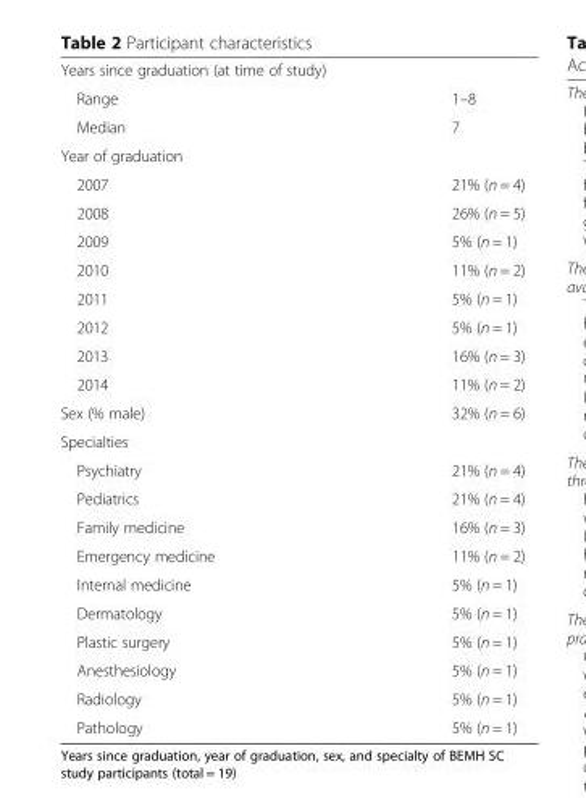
<table><tbody><tr><td colspan="2">Years since graduation (at time of study)</td></tr><tr><td>Range</td><td>1–8</td></tr><tr><td>Median</td><td>7</td></tr><tr><td colspan="2">Year of graduation</td></tr><tr><td>2007</td><td>21% (n = 4)</td></tr><tr><td>2008</td><td>26% (n = 5)</td></tr><tr><td>2009</td><td>5% (n = 1)</td></tr><tr><td>2010</td><td>11% (n = 2)</td></tr><tr><td>2011</td><td>5% (n = 1)</td></tr><tr><td>2012</td><td>5% (n = 1)</td></tr><tr><td>2013</td><td>16% (n = 3)</td></tr><tr><td>2014</td><td>11% (n = 2)</td></tr><tr><td>Sex (% male)</td><td>32% (n = 6)</td></tr><tr><td colspan="2">Specialties</td></tr><tr><td>Psychiatry</td><td>21% (n = 4)</td></tr><tr><td>Pediatrics</td><td>21% (n = 4)</td></tr><tr><td>Family medicine</td><td>16% (n = 3)</td></tr><tr><td>Emergency medicine</td><td>11% (n = 2)</td></tr><tr><td>Internal medicine</td><td>5% (n = 1)</td></tr><tr><td>Dermatology</td><td>5% (n = 1)</td></tr><tr><td>Plastic surgery</td><td>5% (n = 1)</td></tr><tr><td>Anesthesiology</td><td>5% (n = 1)</td></tr><tr><td>Radiology</td><td>5% (n = 1)</td></tr><tr><td>Pathology</td><td>5% (n = 1)</td></tr></tbody></table>